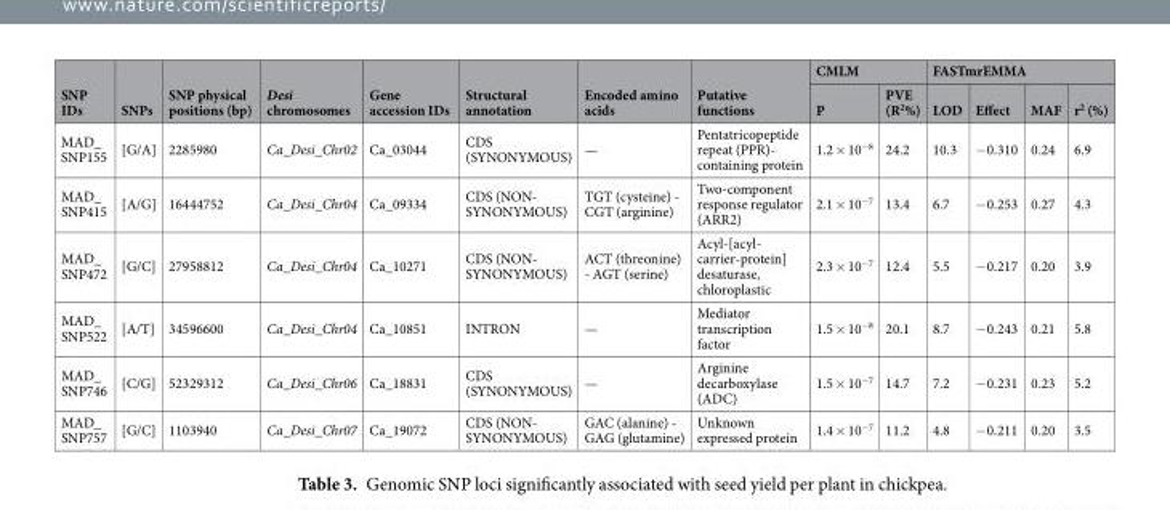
<table><thead><tr><td rowspan="2">SNP IDs</td><td rowspan="2">SNPs</td><td rowspan="2">SNP physical positions (bp)</td><td rowspan="2">Desi chromosomes</td><td rowspan="2">Gene accession IDs</td><td rowspan="2">Structural annotation</td><td rowspan="2">Encoded amino acids</td><td rowspan="2">Putative functions</td><td colspan="2">CMLM</td><td colspan="4">FASTmrEMMA</td></tr><tr><td>P</td><td>PVE (R<sup>2</sup>%)</td><td>LOD</td><td>Effect</td><td>MAF</td><td>r<sup>2</sup> (%)</td></tr></thead><tbody><tr><td>MAD_ SNP155</td><td>[G/A]</td><td>2285980</td><td>Ca_Desi_Chr02</td><td>Ca_03044</td><td>CDS (SYNONYMOUS)</td><td>—</td><td>Pentatricopeptide repeat (PPR)- containing protein</td><td>1.2 × 10<sup>−8</sup></td><td>24.2</td><td>10.3</td><td>−0.310</td><td>0.24</td><td>6.9</td></tr><tr><td>MAD_ SNP415</td><td>[A/G]</td><td>16444752</td><td>Ca_Desi_Chr04</td><td>Ca_09334</td><td>CDS (NON- SYNONYMOUS)</td><td>TGT (cysteine) - CGT (arginine)</td><td>Two-component response regulator (ARR2)</td><td>2.1 × 10<sup>−7</sup></td><td>13.4</td><td>6.7</td><td>−0.253</td><td>0.27</td><td>4.3</td></tr><tr><td>MAD_ SNP472</td><td>[G/C]</td><td>27958812</td><td>Ca_Desi_Chr04</td><td>Ca_10271</td><td>CDS (NON- SYNONYMOUS)</td><td>ACT (threonine) - AGT (serine)</td><td>Acyl-[acyl- carrier-protein] desaturase, chloroplastic</td><td>2.3 × 10<sup>−7</sup></td><td>12.4</td><td>5.5</td><td>−0.217</td><td>0.20</td><td>3.9</td></tr><tr><td>MAD_ SNP522</td><td>[A/T]</td><td>34596600</td><td>Ca_Desi_Chr04</td><td>Ca_10851</td><td>INTRON</td><td>—</td><td>Mediator transcription factor</td><td>1.5 × 10<sup>−8</sup></td><td>20.1</td><td>8.7</td><td>−0.243</td><td>0.21</td><td>5.8</td></tr><tr><td>MAD_ SNP746</td><td>[C/G]</td><td>52329312</td><td>Ca_Desi_Chr06</td><td>Ca_18831</td><td>CDS (SYNONYMOUS)</td><td>—</td><td>Arginine decarboxylase (ADC)</td><td>1.5 × 10<sup>−7</sup></td><td>14.7</td><td>7.2</td><td>−0.231</td><td>0.23</td><td>5.2</td></tr><tr><td>MAD_ SNP757</td><td>[G/C]</td><td>1103940</td><td>Ca_Desi_Chr07</td><td>Ca_19072</td><td>CDS (NON- SYNONYMOUS)</td><td>GAC (alanine) - GAG (glutamine)</td><td>Unknown expressed protein</td><td>1.4 × 10<sup>−7</sup></td><td>11.2</td><td>4.8</td><td>−0.211</td><td>0.20</td><td>3.5</td></tr></tbody></table>